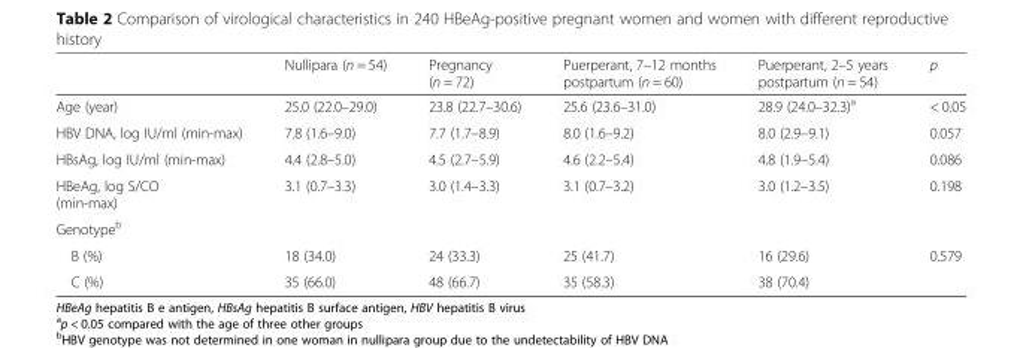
<table><thead><tr><td></td><td>Nullipara (n = 54)</td><td>Pregnancy (n = 72)</td><td>Puerperant, 7–12 months postpartum (n = 60)</td><td>Puerperant, 2–5 years postpartum (n = 54)</td><td>p</td></tr></thead><tbody><tr><td>Age (year)</td><td>25.0 (22.0–29.0)</td><td>23.8 (22.7–30.6)</td><td>25.6 (23.6–31.0)</td><td>28.9 (24.0–32.3)<sup>a</sup></td><td>&lt; 0.05</td></tr><tr><td>HBV DNA, log IU/ml (min-max)</td><td>7.8 (1.6–9.0)</td><td>7.7 (1.7–8.9)</td><td>8.0 (1.6–9.2)</td><td>8.0 (2.9–9.1)</td><td>0.057</td></tr><tr><td>HBsAg, log IU/ml (min-max)</td><td>4.4 (2.8–5.0)</td><td>4.5 (2.7–5.9)</td><td>4.6 (2.2–5.4)</td><td>4.8 (1.9–5.4)</td><td>0.086</td></tr><tr><td>HBeAg, log S/CO (min-max)</td><td>3.1 (0.7–3.3)</td><td>3.0 (1.4–3.3)</td><td>3.1 (0.7–3.2)</td><td>3.0 (1.2–3.5)</td><td>0.198</td></tr><tr><td colspan="6">Genotype<sup>b</sup></td></tr><tr><td>B (%)</td><td>18 (34.0)</td><td>24 (33.3)</td><td>25 (41.7)</td><td>16 (29.6)</td><td rowspan="2">0.579</td></tr><tr><td>C (%)</td><td>35 (66.0)</td><td>48 (66.7)</td><td>35 (58.3)</td><td>38 (70.4)</td></tr></tbody></table>